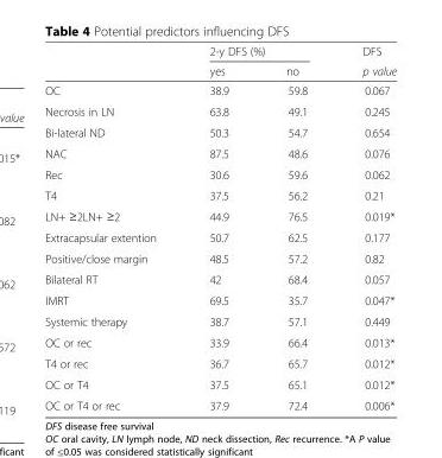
<table><thead><tr><td rowspan="2"></td><td colspan="2">2-y DFS (%)</td><td rowspan="2">DFS p value</td></tr><tr><td>yes</td><td>no</td></tr></thead><tbody><tr><td>OC</td><td>38.9</td><td>59.8</td><td>0.067</td></tr><tr><td>Necrosis in LN</td><td>63.8</td><td>49.1</td><td>0.245</td></tr><tr><td>Bi-lateral ND</td><td>50.3</td><td>54.7</td><td>0.654</td></tr><tr><td>NAC</td><td>87.5</td><td>48.6</td><td>0.076</td></tr><tr><td>Rec</td><td>30.6</td><td>59.6</td><td>0.062</td></tr><tr><td>T4</td><td>37.5</td><td>56.2</td><td>0.21</td></tr><tr><td>LN+ ≥2LN+ ≥2</td><td>44.9</td><td>76.5</td><td>0.019*</td></tr><tr><td>Extracapsular extention</td><td>50.7</td><td>62.5</td><td>0.177</td></tr><tr><td>Positive/close margin</td><td>48.5</td><td>57.2</td><td>0.82</td></tr><tr><td>Bilateral RT</td><td>42</td><td>68.4</td><td>0.057</td></tr><tr><td>IMRT</td><td>69.5</td><td>35.7</td><td>0.047*</td></tr><tr><td>Systemic therapy</td><td>38.7</td><td>57.1</td><td>0.449</td></tr><tr><td>OC or rec</td><td>33.9</td><td>66.4</td><td>0.013*</td></tr><tr><td>T4 or rec</td><td>36.7</td><td>65.7</td><td>0.012*</td></tr><tr><td>OC or T4</td><td>37.5</td><td>65.1</td><td>0.012*</td></tr><tr><td>OC or T4 or rec</td><td>37.9</td><td>72.4</td><td>0.006*</td></tr></tbody></table>